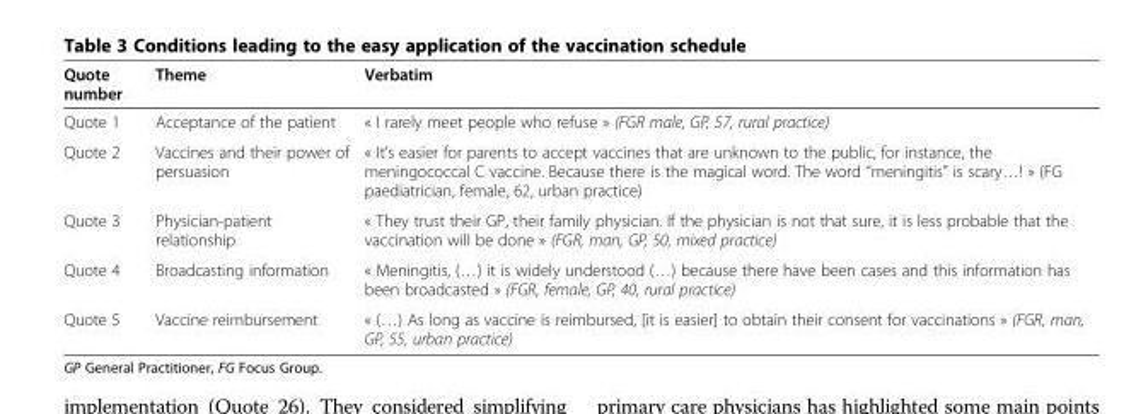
<table><thead><tr><td>Quote number</td><td>Theme</td><td>Verbatim</td></tr></thead><tbody><tr><td>Quote 1</td><td>Acceptance of the patient</td><td>« I rarely meet people who refuse » (FGR male, GP, 57, rural practice)</td></tr><tr><td>Quote 2</td><td>Vaccines and their power of persuasion</td><td>« It’s easier for parents to accept vaccines that are unknown to the public, for instance, the meningococcal C vaccine. Because there is the magical word. The word “meningitis” is scary…! » (FG paediatrician, female, 62, urban practice)</td></tr><tr><td>Quote 3</td><td>Physician-patient relationship</td><td>« They trust their GP, their family physician. If the physician is not that sure, it is less probable that the vaccination will be done » (FGR, man, GP, 50, mixed practice)</td></tr><tr><td>Quote 4</td><td>Broadcasting information</td><td>« Meningitis, (…) it is widely understood (…) because there have been cases and this information has been broadcasted » (FGR, female, GP, 40, rural practice)</td></tr><tr><td>Quote 5</td><td>Vaccine reimbursement</td><td>« (…) As long as vaccine is reimbursed, [it is easier] to obtain their consent for vaccinations » (FGR, man, GP, 55, urban practice)</td></tr></tbody></table>